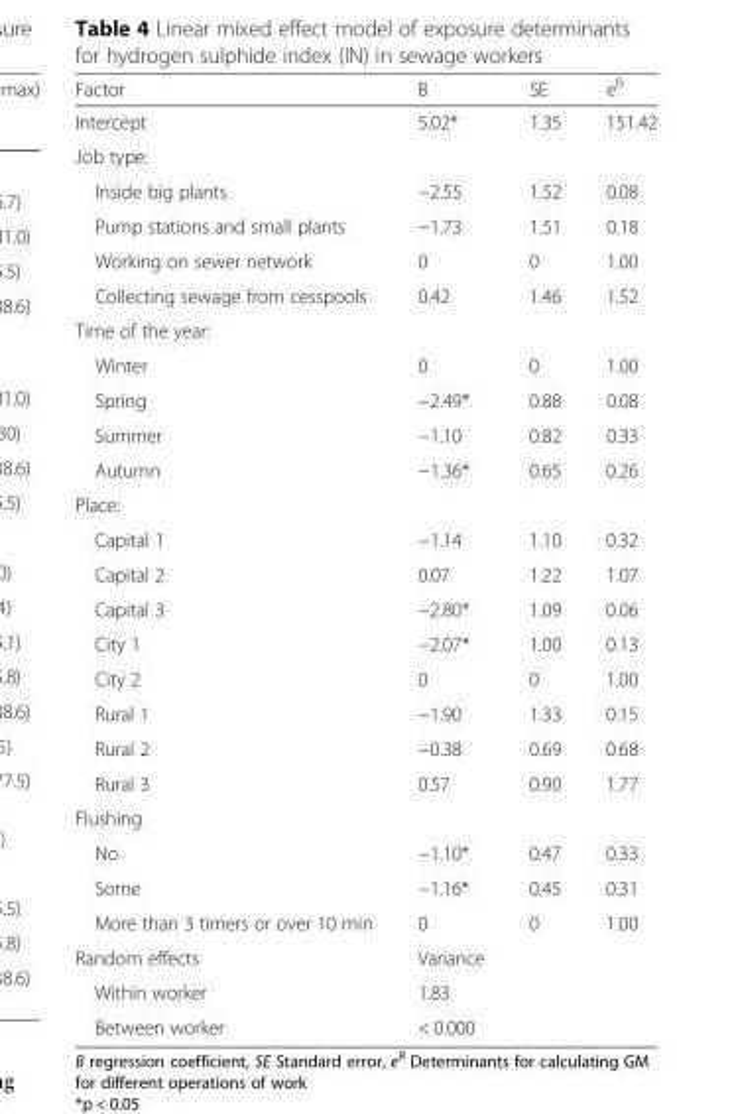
<table><thead><tr><td>Factor</td><td>B</td><td>SE</td><td>e<sup>B</sup></td></tr></thead><tbody><tr><td>Intercept</td><td>5.02*</td><td>1.35</td><td>151.42</td></tr><tr><td colspan="4">Job type:</td></tr><tr><td>Inside big plants</td><td>−2.55</td><td>1.52</td><td>0.08</td></tr><tr><td>Pump stations and small plants</td><td>−1.73</td><td>1.51</td><td>0.18</td></tr><tr><td>Working on sewer network</td><td>0</td><td>0</td><td>1.00</td></tr><tr><td>Collecting sewage from cesspools</td><td>0.42</td><td>1.46</td><td>1.52</td></tr><tr><td colspan="4">Time of the year:</td></tr><tr><td>Winter</td><td>0</td><td>0</td><td>1.00</td></tr><tr><td>Spring</td><td>−2.49*</td><td>0.88</td><td>0.08</td></tr><tr><td>Summer</td><td>−1.10</td><td>0.82</td><td>0.33</td></tr><tr><td>Autumn</td><td>−1.36*</td><td>0.65</td><td>0.26</td></tr><tr><td colspan="4">Place:</td></tr><tr><td>Capital 1</td><td>−1.14</td><td>1.10</td><td>0.32</td></tr><tr><td>Capital 2</td><td>0.07</td><td>1.22</td><td>1.07</td></tr><tr><td>Capital 3</td><td>−2.80*</td><td>1.09</td><td>0.06</td></tr><tr><td>City 1</td><td>−2.07*</td><td>1.00</td><td>0.13</td></tr><tr><td>City 2</td><td>0</td><td>0</td><td>1.00</td></tr><tr><td>Rural 1</td><td>−1.90</td><td>1.33</td><td>0.15</td></tr><tr><td>Rural 2</td><td>−0.38</td><td>0.69</td><td>0.68</td></tr><tr><td>Rural 3</td><td>0.57</td><td>0.90</td><td>1.77</td></tr><tr><td colspan="4">Flushing</td></tr><tr><td>No</td><td>−1.10*</td><td>0.47</td><td>0.33</td></tr><tr><td>Some</td><td>−1.16*</td><td>0.45</td><td>0.31</td></tr><tr><td>More than 3 timers or over 10 min</td><td>0</td><td>0</td><td>1.00</td></tr><tr><td>Random effects</td><td>Variance</td><td></td><td></td></tr><tr><td>Within worker</td><td>1.83</td><td></td><td></td></tr><tr><td>Between worker</td><td>&lt; 0.000</td><td></td><td></td></tr></tbody></table>